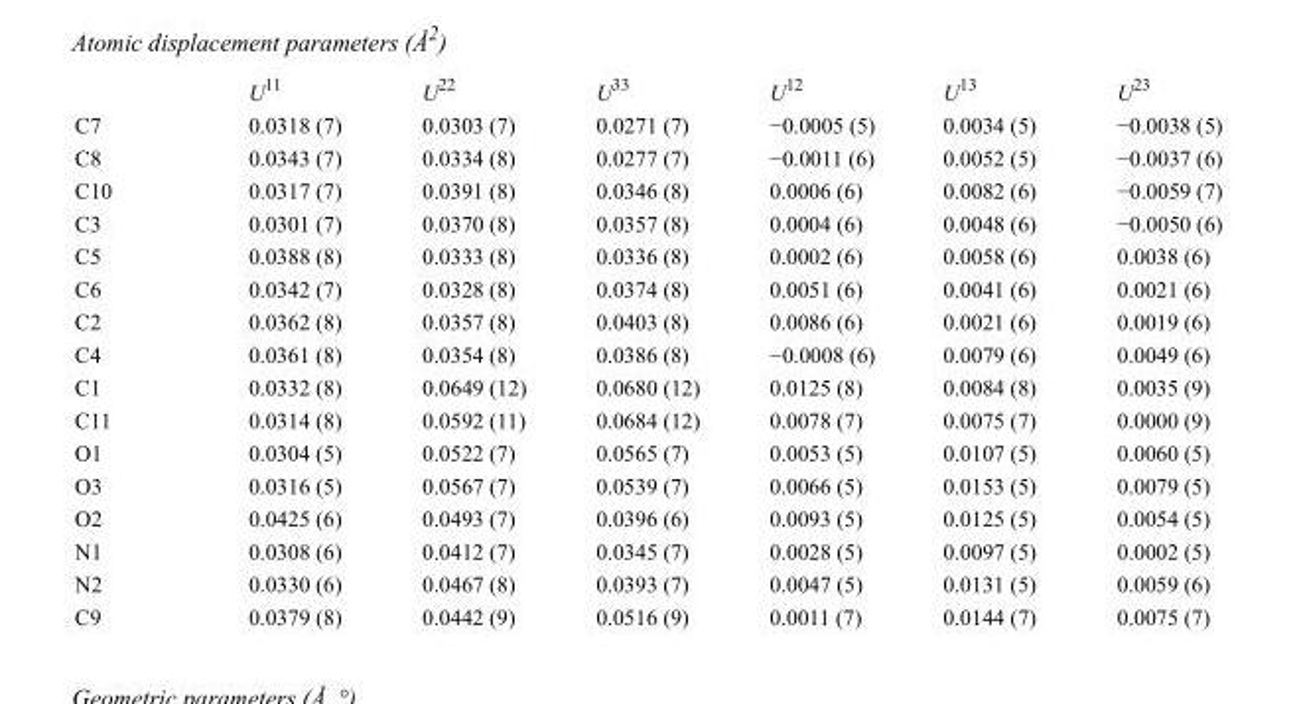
<table><thead><tr><td></td><td>U<sup>11</sup></td><td>U<sup>22</sup></td><td>U<sup>33</sup></td><td>U<sup>12</sup></td><td>U<sup>13</sup></td><td>U<sup>23</sup></td></tr></thead><tbody><tr><td>C7</td><td>0.0318 (7)</td><td>0.0303 (7)</td><td>0.0271 (7)</td><td>−0.0005 (5)</td><td>0.0034 (5)</td><td>−0.0038 (5)</td></tr><tr><td>C8</td><td>0.0343 (7)</td><td>0.0334 (8)</td><td>0.0277 (7)</td><td>−0.0011 (6)</td><td>0.0052 (5)</td><td>−0.0037 (6)</td></tr><tr><td>C10</td><td>0.0317 (7)</td><td>0.0391 (8)</td><td>0.0346 (8)</td><td>0.0006 (6)</td><td>0.0082 (6)</td><td>−0.0059 (7)</td></tr><tr><td>C3</td><td>0.0301 (7)</td><td>0.0370 (8)</td><td>0.0357 (8)</td><td>0.0004 (6)</td><td>0.0048 (6)</td><td>−0.0050 (6)</td></tr><tr><td>C5</td><td>0.0388 (8)</td><td>0.0333 (8)</td><td>0.0336 (8)</td><td>0.0002 (6)</td><td>0.0058 (6)</td><td>0.0038 (6)</td></tr><tr><td>C6</td><td>0.0342 (7)</td><td>0.0328 (8)</td><td>0.0374 (8)</td><td>0.0051 (6)</td><td>0.0041 (6)</td><td>0.0021 (6)</td></tr><tr><td>C2</td><td>0.0362 (8)</td><td>0.0357 (8)</td><td>0.0403 (8)</td><td>0.0086 (6)</td><td>0.0021 (6)</td><td>0.0019 (6)</td></tr><tr><td>C4</td><td>0.0361 (8)</td><td>0.0354 (8)</td><td>0.0386 (8)</td><td>−0.0008 (6)</td><td>0.0079 (6)</td><td>0.0049 (6)</td></tr><tr><td>C1</td><td>0.0332 (8)</td><td>0.0649 (12)</td><td>0.0680 (12)</td><td>0.0125 (8)</td><td>0.0084 (8)</td><td>0.0035 (9)</td></tr><tr><td>C11</td><td>0.0314 (8)</td><td>0.0592 (11)</td><td>0.0684 (12)</td><td>0.0078 (7)</td><td>0.0075 (7)</td><td>0.0000 (9)</td></tr><tr><td>O1</td><td>0.0304 (5)</td><td>0.0522 (7)</td><td>0.0565 (7)</td><td>0.0053 (5)</td><td>0.0107 (5)</td><td>0.0060 (5)</td></tr><tr><td>O3</td><td>0.0316 (5)</td><td>0.0567 (7)</td><td>0.0539 (7)</td><td>0.0066 (5)</td><td>0.0153 (5)</td><td>0.0079 (5)</td></tr><tr><td>O2</td><td>0.0425 (6)</td><td>0.0493 (7)</td><td>0.0396 (6)</td><td>0.0093 (5)</td><td>0.0125 (5)</td><td>0.0054 (5)</td></tr><tr><td>N1</td><td>0.0308 (6)</td><td>0.0412 (7)</td><td>0.0345 (7)</td><td>0.0028 (5)</td><td>0.0097 (5)</td><td>0.0002 (5)</td></tr><tr><td>N2</td><td>0.0330 (6)</td><td>0.0467 (8)</td><td>0.0393 (7)</td><td>0.0047 (5)</td><td>0.0131 (5)</td><td>0.0059 (6)</td></tr><tr><td>C9</td><td>0.0379 (8)</td><td>0.0442 (9)</td><td>0.0516 (9)</td><td>0.0011 (7)</td><td>0.0144 (7)</td><td>0.0075 (7)</td></tr></tbody></table>